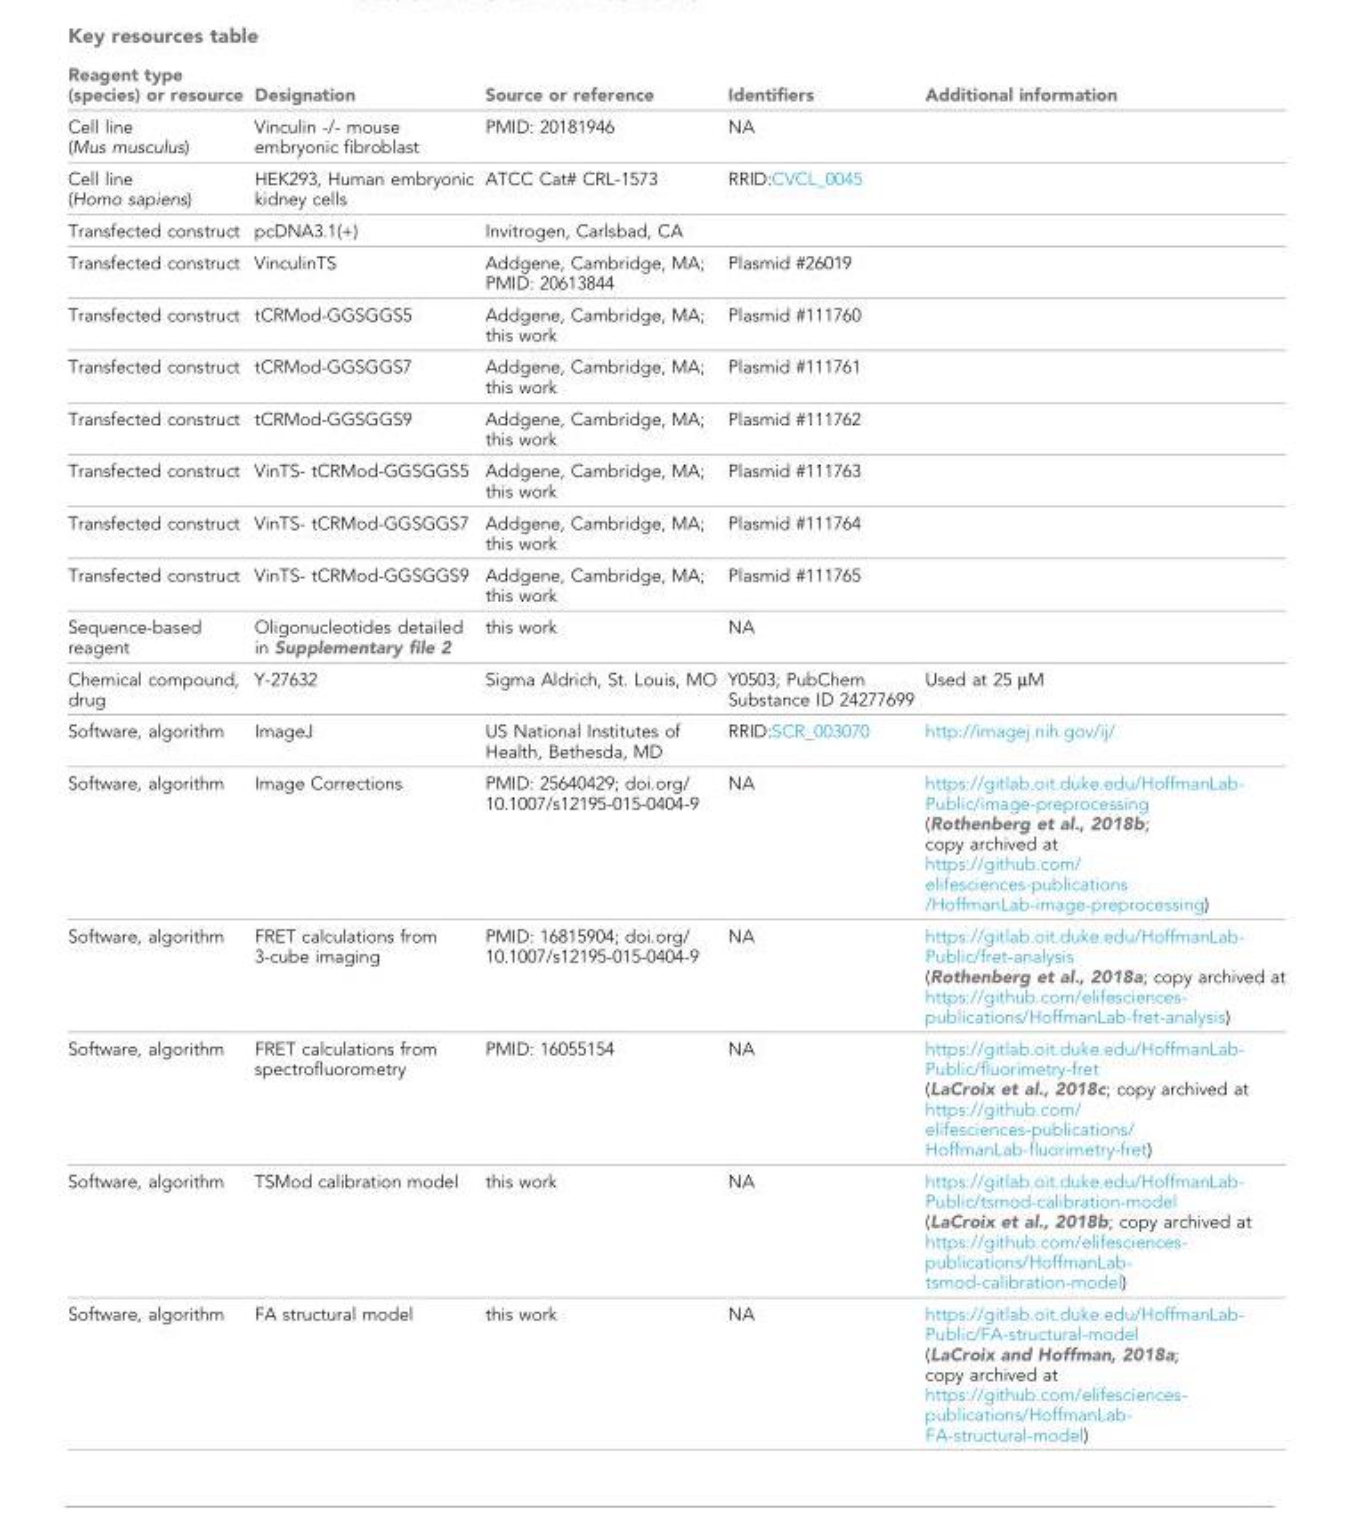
<table><thead><tr><td>Reagent type (species) or resource</td><td>Designation</td><td>Source or reference</td><td>Identifiers</td><td>Additional information</td></tr></thead><tbody><tr><td>Cell line (Mus musculus)</td><td>Vinculin -/- mouse embryonic fibroblast</td><td>PMID: 20181946</td><td>NA</td><td></td></tr><tr><td>Cell line (Homo sapiens)</td><td>HEK293, Human embryonic kidney cells</td><td>ATCC Cat# CRL-1573</td><td>RRID:CVCL_0045</td><td></td></tr><tr><td>Transfected construct</td><td>pcDNA3.1(+)</td><td>Invitrogen, Carlsbad, CA</td><td></td><td></td></tr><tr><td>Transfected construct</td><td>VinculinTS</td><td>Addgene, Cambridge, MA; PMID: 20613844</td><td>Plasmid #26019</td><td></td></tr><tr><td>Transfected construct</td><td>tCRMod-GGSGGS5</td><td>Addgene, Cambridge, MA; this work</td><td>Plasmid #111760</td><td></td></tr><tr><td>Transfected construct</td><td>tCRMod-GGSGGS7</td><td>Addgene, Cambridge, MA; this work</td><td>Plasmid #111761</td><td></td></tr><tr><td>Transfected construct</td><td>tCRMod-GGSGGS9</td><td>Addgene, Cambridge, MA; this work</td><td>Plasmid #111762</td><td></td></tr><tr><td>Transfected construct</td><td>VinTS- tCRMod-GGSGGS5</td><td>Addgene, Cambridge, MA; this work</td><td>Plasmid #111763</td><td></td></tr><tr><td>Transfected construct</td><td>VinTS- tCRMod-GGSGGS7</td><td>Addgene, Cambridge, MA; this work</td><td>Plasmid #111764</td><td></td></tr><tr><td>Transfected construct</td><td>VinTS- tCRMod-GGSGGS9</td><td>Addgene, Cambridge, MA; this work</td><td>Plasmid #111765</td><td></td></tr><tr><td>Sequence-based reagent</td><td>Oligonucleotides detailed in Supplementary file 2</td><td>this work</td><td>NA</td><td></td></tr><tr><td>Chemical compound, drug</td><td>Y-27632</td><td>Sigma Aldrich, St. Louis, MO</td><td>Y0503; PubChem Substance ID 24277699</td><td>Used at 25 μM</td></tr><tr><td>Software, algorithm</td><td>ImageJ</td><td>US National Institutes of Health, Bethesda, MD</td><td>RRID:SCR_003070</td><td>http://imagej.nih.gov/ij/</td></tr><tr><td>Software, algorithm</td><td>Image Corrections</td><td>PMID: 25640429; doi.org/ 10.1007/s12195-015-0404-9</td><td>NA</td><td>https://gitlab.oit.duke.edu/HoffmanLab- Public/image-preprocessing (Rothenberg et al., 2018b; copy archived at https://github.com/ elifesciences-publications /HoffmanLab-image-preprocessing)</td></tr><tr><td>Software, algorithm</td><td>FRET calculations from 3-cube imaging</td><td>PMID: 16815904; doi.org/ 10.1007/s12195-015-0404-9</td><td>NA</td><td>https://gitlab.oit.duke.edu/HoffmanLab- Public/fret-analysis (Rothenberg et al., 2018a; copy archived at https://github.com/elifesciences- publications/HoffmanLab-fret-analysis)</td></tr><tr><td>Software, algorithm</td><td>FRET calculations from spectrofluorometry</td><td>PMID: 16055154</td><td>NA</td><td>https://gitlab.oit.duke.edu/HoffmanLab- Public/fluorimetry-fret (LaCroix et al., 2018c; copy archived at https://github.com/ elifesciences-publications/ HoffmanLab-fluorimetry-fret)</td></tr><tr><td>Software, algorithm</td><td>TSMod calibration model</td><td>this work</td><td>NA</td><td>https://gitlab.oit.duke.edu/HoffmanLab- Public/tsmod-calibration-model (LaCroix et al., 2018b; copy archived at https://github.com/elifesciences- publications/HoffmanLab- tsmod-calibration-model)</td></tr><tr><td>Software, algorithm</td><td>FA structural model</td><td>this work</td><td>NA</td><td>https://gitlab.oit.duke.edu/HoffmanLab- Public/FA-structural-model (LaCroix and Hoffman, 2018a; copy archived at https://github.com/elifesciences- publications/HoffmanLab- FA-structural-model)</td></tr></tbody></table>